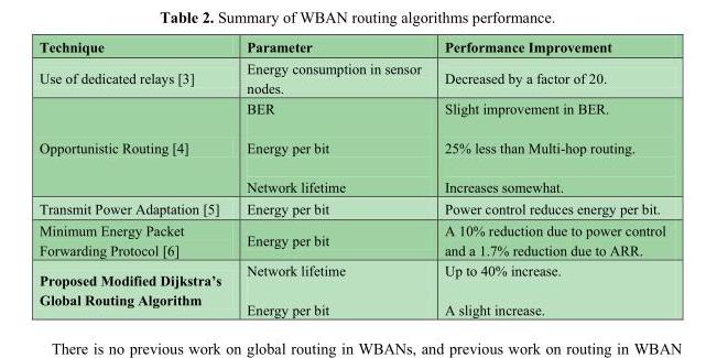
<table><thead><tr><td>Technique</td><td>Parameter</td><td>Performance Improvement</td></tr></thead><tbody><tr><td>Use of dedicated relays [3]</td><td>Energy consumption in sensor nodes.</td><td>Decreased by a factor of 20.</td></tr><tr><td>Opportunistic Routing [4]</td><td>BER Energy per bit Network lifetime</td><td>Slight improvement in BER. 25% less than Multi-hop routing. Increases somewhat.</td></tr><tr><td>Transmit Power Adaptation [5]</td><td>Energy per bit</td><td>Power control reduces energy per bit.</td></tr><tr><td>Minimum Energy Packet Forwarding Protocol [6]</td><td>Energy per bit</td><td>A 10% reduction due to power control and a 1.7% reduction due to ARR.</td></tr><tr><td>Proposed Modified Dijkstra’s Global Routing Algorithm</td><td>Network lifetime Energy per bit</td><td>Up to 40% increase. A slight increase.</td></tr></tbody></table>